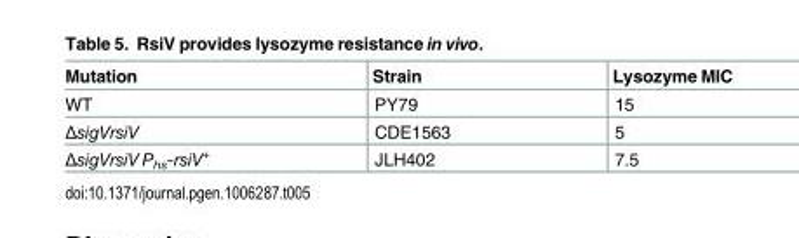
<table><thead><tr><td>Mutation</td><td>Strain</td><td>Lysozyme MIC</td></tr></thead><tbody><tr><td>WT</td><td>PY79</td><td>15</td></tr><tr><td>ΔsigVrsiV</td><td>CDE1563</td><td>5</td></tr><tr><td>ΔsigVrsiV P<sub>hs</sub>-rsiV<sup>+</sup></td><td>JLH402</td><td>7.5</td></tr></tbody></table>